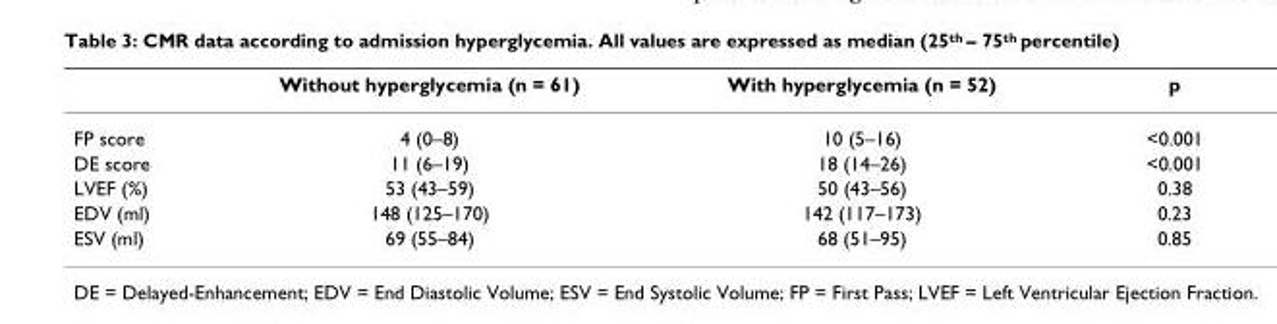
<table><thead><tr><td></td><td>Without hyperglycemia (n = 61)</td><td>With hyperglycemia (n = 52)</td><td>p</td></tr></thead><tbody><tr><td>FP score</td><td>4 (0–8)</td><td>10 (5–16)</td><td>&lt;0.001</td></tr><tr><td>DE score</td><td>11 (6–19)</td><td>18 (14–26)</td><td>&lt;0.001</td></tr><tr><td>LVEF (%)</td><td>53 (43–59)</td><td>50 (43–56)</td><td>0.38</td></tr><tr><td>EDV (ml)</td><td>148 (125–170)</td><td>142 (117–173)</td><td>0.23</td></tr><tr><td>ESV (ml)</td><td>69 (55–84)</td><td>68 (51–95)</td><td>0.85</td></tr></tbody></table>